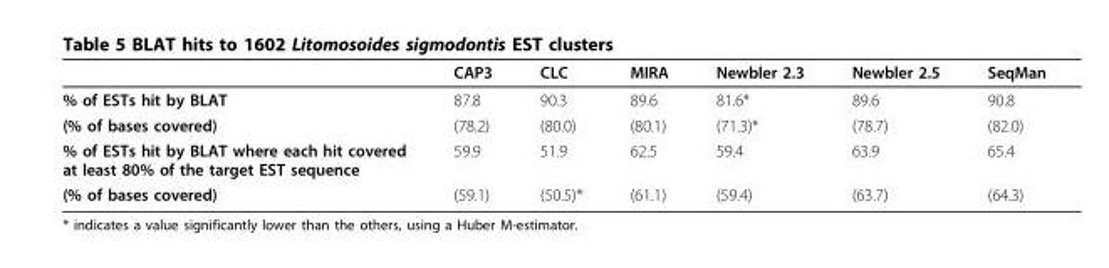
<table><thead><tr><td></td><td>CAP3</td><td>CLC</td><td>MIRA</td><td>Newbler 2.3</td><td>Newbler 2.5</td><td>SeqMan</td></tr></thead><tbody><tr><td>% of ESTs hit by BLAT</td><td>87.8</td><td>90.3</td><td>89.6</td><td>81.6*</td><td>89.6</td><td>90.8</td></tr><tr><td>(% of bases covered)</td><td>(78.2)</td><td>(80.0)</td><td>(80.1)</td><td>(71.3)*</td><td>(78.7)</td><td>(82.0)</td></tr><tr><td>% of ESTs hit by BLAT where each hit covered at least 80% of the target EST sequence</td><td>59.9</td><td>51.9</td><td>62.5</td><td>59.4</td><td>63.9</td><td>65.4</td></tr><tr><td>(% of bases covered)</td><td>(59.1)</td><td>(50.5)*</td><td>(61.1)</td><td>(59.4)</td><td>(63.7)</td><td>(64.3)</td></tr></tbody></table>